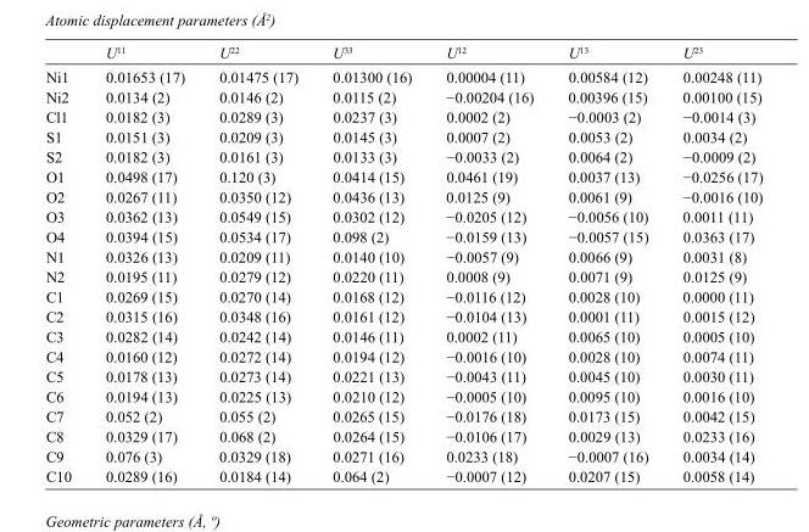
<table><thead><tr><td></td><td>U<sup>11</sup></td><td>U<sup>22</sup></td><td>U<sup>33</sup></td><td>U<sup>12</sup></td><td>U<sup>13</sup></td><td>U<sup>23</sup></td></tr></thead><tbody><tr><td>Ni1</td><td>0.01653 (17)</td><td>0.01475 (17)</td><td>0.01300 (16)</td><td>0.00004 (11)</td><td>0.00584 (12)</td><td>0.00248 (11)</td></tr><tr><td>Ni2</td><td>0.0134 (2)</td><td>0.0146 (2)</td><td>0.0115 (2)</td><td>−0.00204 (16)</td><td>0.00396 (15)</td><td>0.00100 (15)</td></tr><tr><td>Cl1</td><td>0.0182 (3)</td><td>0.0289 (3)</td><td>0.0237 (3)</td><td>0.0002 (2)</td><td>−0.0003 (2)</td><td>−0.0014 (3)</td></tr><tr><td>S1</td><td>0.0151 (3)</td><td>0.0209 (3)</td><td>0.0145 (3)</td><td>0.0007 (2)</td><td>0.0053 (2)</td><td>0.0034 (2)</td></tr><tr><td>S2</td><td>0.0182 (3)</td><td>0.0161 (3)</td><td>0.0133 (3)</td><td>−0.0033 (2)</td><td>0.0064 (2)</td><td>−0.0009 (2)</td></tr><tr><td>O1</td><td>0.0498 (17)</td><td>0.120 (3)</td><td>0.0414 (15)</td><td>0.0461 (19)</td><td>0.0037 (13)</td><td>−0.0256 (17)</td></tr><tr><td>O2</td><td>0.0267 (11)</td><td>0.0350 (12)</td><td>0.0436 (13)</td><td>0.0125 (9)</td><td>0.0061 (9)</td><td>−0.0016 (10)</td></tr><tr><td>O3</td><td>0.0362 (13)</td><td>0.0549 (15)</td><td>0.0302 (12)</td><td>−0.0205 (12)</td><td>−0.0056 (10)</td><td>0.0011 (11)</td></tr><tr><td>O4</td><td>0.0394 (15)</td><td>0.0534 (17)</td><td>0.098 (2)</td><td>−0.0159 (13)</td><td>−0.0057 (15)</td><td>0.0363 (17)</td></tr><tr><td>N1</td><td>0.0326 (13)</td><td>0.0209 (11)</td><td>0.0140 (10)</td><td>−0.0057 (9)</td><td>0.0066 (9)</td><td>0.0031 (8)</td></tr><tr><td>N2</td><td>0.0195 (11)</td><td>0.0279 (12)</td><td>0.0220 (11)</td><td>0.0008 (9)</td><td>0.0071 (9)</td><td>0.0125 (9)</td></tr><tr><td>C1</td><td>0.0269 (15)</td><td>0.0270 (14)</td><td>0.0168 (12)</td><td>−0.0116 (12)</td><td>0.0028 (10)</td><td>0.0000 (11)</td></tr><tr><td>C2</td><td>0.0315 (16)</td><td>0.0348 (16)</td><td>0.0161 (12)</td><td>−0.0104 (13)</td><td>0.0001 (11)</td><td>0.0015 (12)</td></tr><tr><td>C3</td><td>0.0282 (14)</td><td>0.0242 (14)</td><td>0.0146 (11)</td><td>0.0002 (11)</td><td>0.0065 (10)</td><td>0.0005 (10)</td></tr><tr><td>C4</td><td>0.0160 (12)</td><td>0.0272 (14)</td><td>0.0194 (12)</td><td>−0.0016 (10)</td><td>0.0028 (10)</td><td>0.0074 (11)</td></tr><tr><td>C5</td><td>0.0178 (13)</td><td>0.0273 (14)</td><td>0.0221 (13)</td><td>−0.0043 (11)</td><td>0.0045 (10)</td><td>0.0030 (11)</td></tr><tr><td>C6</td><td>0.0194 (13)</td><td>0.0225 (13)</td><td>0.0210 (12)</td><td>−0.0005 (10)</td><td>0.0095 (10)</td><td>0.0016 (10)</td></tr><tr><td>C7</td><td>0.052 (2)</td><td>0.055 (2)</td><td>0.0265 (15)</td><td>−0.0176 (18)</td><td>0.0173 (15)</td><td>0.0042 (15)</td></tr><tr><td>C8</td><td>0.0329 (17)</td><td>0.068 (2)</td><td>0.0264 (15)</td><td>−0.0106 (17)</td><td>0.0029 (13)</td><td>0.0233 (16)</td></tr><tr><td>C9</td><td>0.076 (3)</td><td>0.0329 (18)</td><td>0.0271 (16)</td><td>0.0233 (18)</td><td>−0.0007 (16)</td><td>0.0034 (14)</td></tr><tr><td>C10</td><td>0.0289 (16)</td><td>0.0184 (14)</td><td>0.064 (2)</td><td>−0.0007 (12)</td><td>0.0207 (15)</td><td>0.0058 (14)</td></tr></tbody></table>